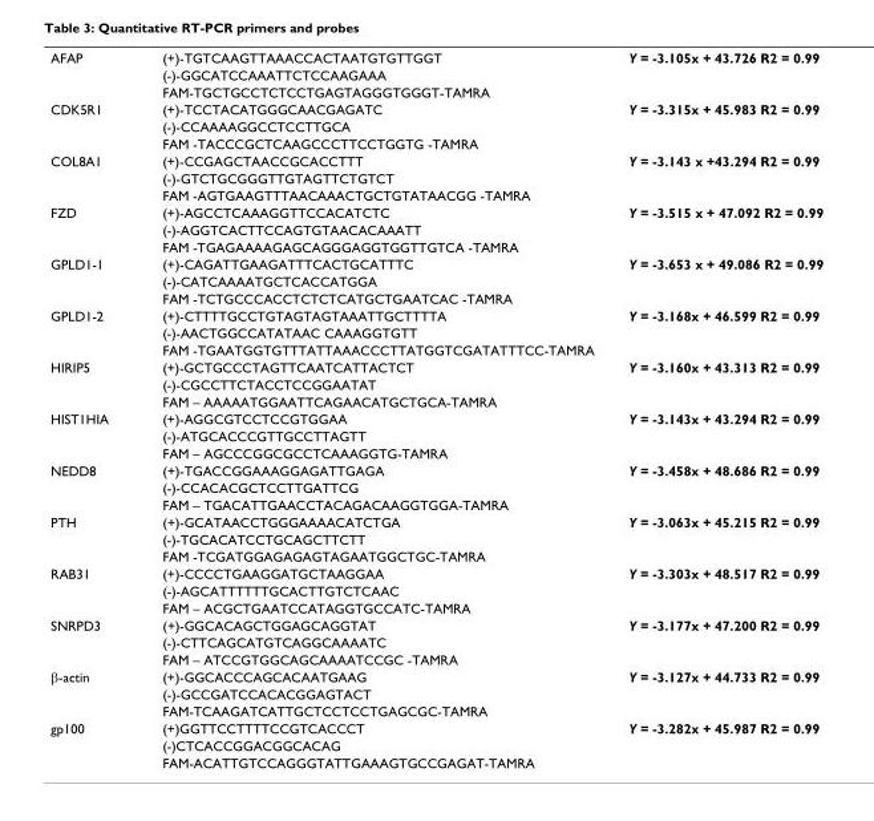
<table><tbody><tr><td rowspan="3">AFAP</td><td>(+)-TGTCAAGTTAAACCACTAATGTGTTGGT</td><td>Y = -3.105x + 43.726 R2 = 0.99</td></tr><tr><td>(-)-GGCATCCAAATTCTCCAAGAAA</td><td></td></tr><tr><td>FAM-TGCTGCCTCTCCTGAGTAGGGTGGGT-TAMRA</td><td></td></tr><tr><td rowspan="3">CDK5R1</td><td>(+)-TCCTACATGGGCAACGAGATC</td><td>Y = -3.315x + 45.983 R2 = 0.99</td></tr><tr><td>(-)-CCAAAAGGCCTCCTTGCA</td><td></td></tr><tr><td>FAM -TACCCGCTCAAGCCCTTCCTGGTG -TAMRA</td><td></td></tr><tr><td rowspan="3">COL8A1</td><td>(+)-CCGAGCTAACCGCACCTTT</td><td>Y = -3.143 x +43.294 R2 = 0.99</td></tr><tr><td>(-)-GTCTGCGGGTTGTAGTTCTGTCT</td><td></td></tr><tr><td>FAM -AGTGAAGTTTAACAAACTGCTGTATAACGG -TAMRA</td><td></td></tr><tr><td rowspan="3">FZD</td><td>(+)-AGCCTCAAAGGTTCCACATCTC</td><td>Y = -3.515 x + 47.092 R2 = 0.99</td></tr><tr><td>(-)-AGGTCACTTCCAGTGTAACACAAATT</td><td></td></tr><tr><td>FAM -TGAGAAAAGAGCAGGGAGGTGGTTGTCA -TAMRA</td><td></td></tr><tr><td rowspan="3">GPLD1-1</td><td>(+)-CAGATTGAAGATTTCACTGCATTTC</td><td>Y = -3.653 x + 49.086 R2 = 0.99</td></tr><tr><td>(-)-CATCAAAATGCTCACCATGGA</td><td></td></tr><tr><td>FAM -TCTGCCCACCTCTCTCATGCTGAATCAC -TAMRA</td><td></td></tr><tr><td rowspan="3">GPLD1-2</td><td>(+)-CTTTTGCCTGTAGTAGTAAATTGCTTTTA</td><td>Y = -3.168x + 46.599 R2 = 0.99</td></tr><tr><td>(-)-AACTGGCCATATAAC CAAAGGTGTT</td><td></td></tr><tr><td>FAM -TGAATGGTGTTTATTAAACCCTTATGGTCGATATTTCC-TAMRA</td><td></td></tr><tr><td rowspan="3">HIRIP5</td><td>(+)-GCTGCCCTAGTTCAATCATTACTCT</td><td>Y = -3.160x + 43.313 R2 = 0.99</td></tr><tr><td>(-)-CGCCTTCTACCTCCGGAATAT</td><td></td></tr><tr><td>FAM – AAAAATGGAATTCAGAACATGCTGCA-TAMRA</td><td></td></tr><tr><td rowspan="3">HIST1HIA</td><td>(+)-AGGCGTCCTCCGTGGAA</td><td>Y = -3.143x + 43.294 R2 = 0.99</td></tr><tr><td>(-)-ATGCACCCGTTGCCTTAGTT</td><td></td></tr><tr><td>FAM – AGCCCGGCGCCTCAAAGGTG-TAMRA</td><td></td></tr><tr><td rowspan="3">NEDD8</td><td>(+)-TGACCGGAAAGGAGATTGAGA</td><td>Y = -3.458x + 48.686 R2 = 0.99</td></tr><tr><td>(-)-CCACACGCTCCTTGATTCG</td><td></td></tr><tr><td>FAM – TGACATTGAACCTACAGACAAGGTGGA-TAMRA</td><td></td></tr><tr><td rowspan="3">PTH</td><td>(+)-GCATAACCTGGGAAAACATCTGA</td><td>Y = -3.063x + 45.215 R2 = 0.99</td></tr><tr><td>(-)-TGCACATCCTGCAGCTTCTT</td><td></td></tr><tr><td>FAM -TCGATGGAGAGAGTAGAATGGCTGC-TAMRA</td><td></td></tr><tr><td rowspan="3">RAB31</td><td>(+)-CCCCTGAAGGATGCTAAGGAA</td><td>Y = -3.303x + 48.517 R2 = 0.99</td></tr><tr><td>(-)-AGCATTTTTTGCACTTGTCTCAAC</td><td></td></tr><tr><td>FAM – ACGCTGAATCCATAGGTGCCATC-TAMRA</td><td></td></tr><tr><td rowspan="3">SNRPD3</td><td>(+)-GGCACAGCTGGAGCAGGTAT</td><td>Y = -3.177x + 47.200 R2 = 0.99</td></tr><tr><td>(-)-CTTCAGCATGTCAGGCAAAATC</td><td></td></tr><tr><td>FAM – ATCCGTGGCAGCAAAATCCGC -TAMRA</td><td></td></tr><tr><td rowspan="3">β-actin</td><td>(+)-GGCACCCAGCACAATGAAG</td><td>Y = -3.127x + 44.733 R2 = 0.99</td></tr><tr><td>(-)-GCCGATCCACACGGAGTACT</td><td></td></tr><tr><td>FAM-TCAAGATCATTGCTCCTCCTGAGCGC-TAMRA</td><td></td></tr><tr><td rowspan="3">gp100</td><td>(+)GGTTCCTTTTCCGTCACCCT</td><td>Y = -3.282x + 45.987 R2 = 0.99</td></tr><tr><td>(-)CTCACCGGACGGCACAG</td><td></td></tr><tr><td>FAM-ACATTGTCCAGGGTATTGAAAGTGCCGAGAT-TAMRA</td><td></td></tr></tbody></table>